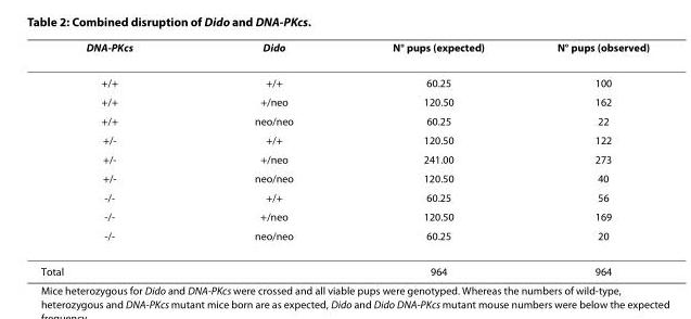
<table><thead><tr><td>DNA-PKcs</td><td>Dido</td><td>N° pups (expected)</td><td>N° pups (observed)</td></tr></thead><tbody><tr><td>+/+</td><td>+/+</td><td>60.25</td><td>100</td></tr><tr><td>+/+</td><td>+/neo</td><td>120.50</td><td>162</td></tr><tr><td>+/+</td><td>neo/neo</td><td>60.25</td><td>22</td></tr><tr><td>+/-</td><td>+/+</td><td>120.50</td><td>122</td></tr><tr><td>+/-</td><td>+/neo</td><td>241.00</td><td>273</td></tr><tr><td>+/-</td><td>neo/neo</td><td>120.50</td><td>40</td></tr><tr><td>-/-</td><td>+/+</td><td>60.25</td><td>56</td></tr><tr><td>-/-</td><td>+/neo</td><td>120.50</td><td>169</td></tr><tr><td>-/-</td><td>neo/neo</td><td>60.25</td><td>20</td></tr><tr><td colspan="2">Total</td><td>964</td><td>964</td></tr></tbody></table>